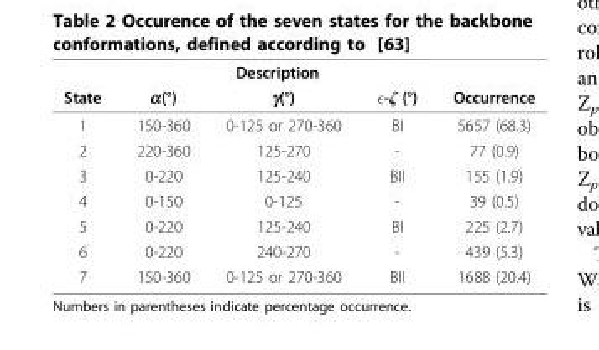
<table><thead><tr><td rowspan="2">State</td><td colspan="3">Description</td><td rowspan="2">Occurrence</td></tr><tr><td>α(°)</td><td>γ(°)</td><td>ϵ-ζ (°)</td></tr></thead><tbody><tr><td>1</td><td>150-360</td><td>0-125 or 270-360</td><td>BI</td><td>5657 (68.3)</td></tr><tr><td>2</td><td>220-360</td><td>125-270</td><td>-</td><td>77 (0.9)</td></tr><tr><td>3</td><td>0-220</td><td>125-240</td><td>BII</td><td>155 (1.9)</td></tr><tr><td>4</td><td>0-150</td><td>0-125</td><td>-</td><td>39 (0.5)</td></tr><tr><td>5</td><td>0-220</td><td>125-240</td><td>BI</td><td>225 (2.7)</td></tr><tr><td>6</td><td>0-220</td><td>240-270</td><td>-</td><td>439 (5.3)</td></tr><tr><td>7</td><td>150-360</td><td>0-125 or 270-360</td><td>BII</td><td>1688 (20.4)</td></tr></tbody></table>